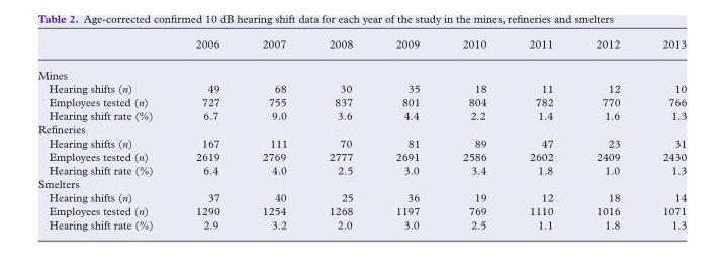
<table><thead><tr><td rowspan="2">Mines</td><td rowspan="2">2006</td><td rowspan="2">2007</td><td rowspan="2">2008</td><td rowspan="2">2009</td><td rowspan="2">2010</td><td rowspan="2">2011</td><td rowspan="2">2012</td><td rowspan="2">2013</td></tr><tr></tr></thead><tbody><tr><td>Hearing shifts (n)</td><td>49</td><td>68</td><td>30</td><td>35</td><td>18</td><td>11</td><td>12</td><td>10</td></tr><tr><td>Employees tested (n)</td><td>727</td><td>755</td><td>837</td><td>801</td><td>804</td><td>782</td><td>770</td><td>766</td></tr><tr><td>Hearing shift rate (%)</td><td>6.7</td><td>9.0</td><td>3.6</td><td>4.4</td><td>2.2</td><td>1.4</td><td>1.6</td><td>1.3</td></tr><tr><td colspan="9">Refineries</td></tr><tr><td>Hearing shifts (n)</td><td>167</td><td>111</td><td>70</td><td>81</td><td>89</td><td>47</td><td>23</td><td>31</td></tr><tr><td>Employees tested (n)</td><td>2619</td><td>2769</td><td>2777</td><td>2691</td><td>2586</td><td>2602</td><td>2409</td><td>2430</td></tr><tr><td>Hearing shift rate (%)</td><td>6.4</td><td>4.0</td><td>2.5</td><td>3.0</td><td>3.4</td><td>1.8</td><td>1.0</td><td>1.3</td></tr><tr><td colspan="9">Smelters</td></tr><tr><td>Hearing shifts (n)</td><td>37</td><td>40</td><td>25</td><td>36</td><td>19</td><td>12</td><td>18</td><td>14</td></tr><tr><td>Employees tested (n)</td><td>1290</td><td>1254</td><td>1268</td><td>1197</td><td>769</td><td>1110</td><td>1016</td><td>1071</td></tr><tr><td>Hearing shift rate (%)</td><td>2.9</td><td>3.2</td><td>2.0</td><td>3.0</td><td>2.5</td><td>1.1</td><td>1.8</td><td>1.3</td></tr></tbody></table>